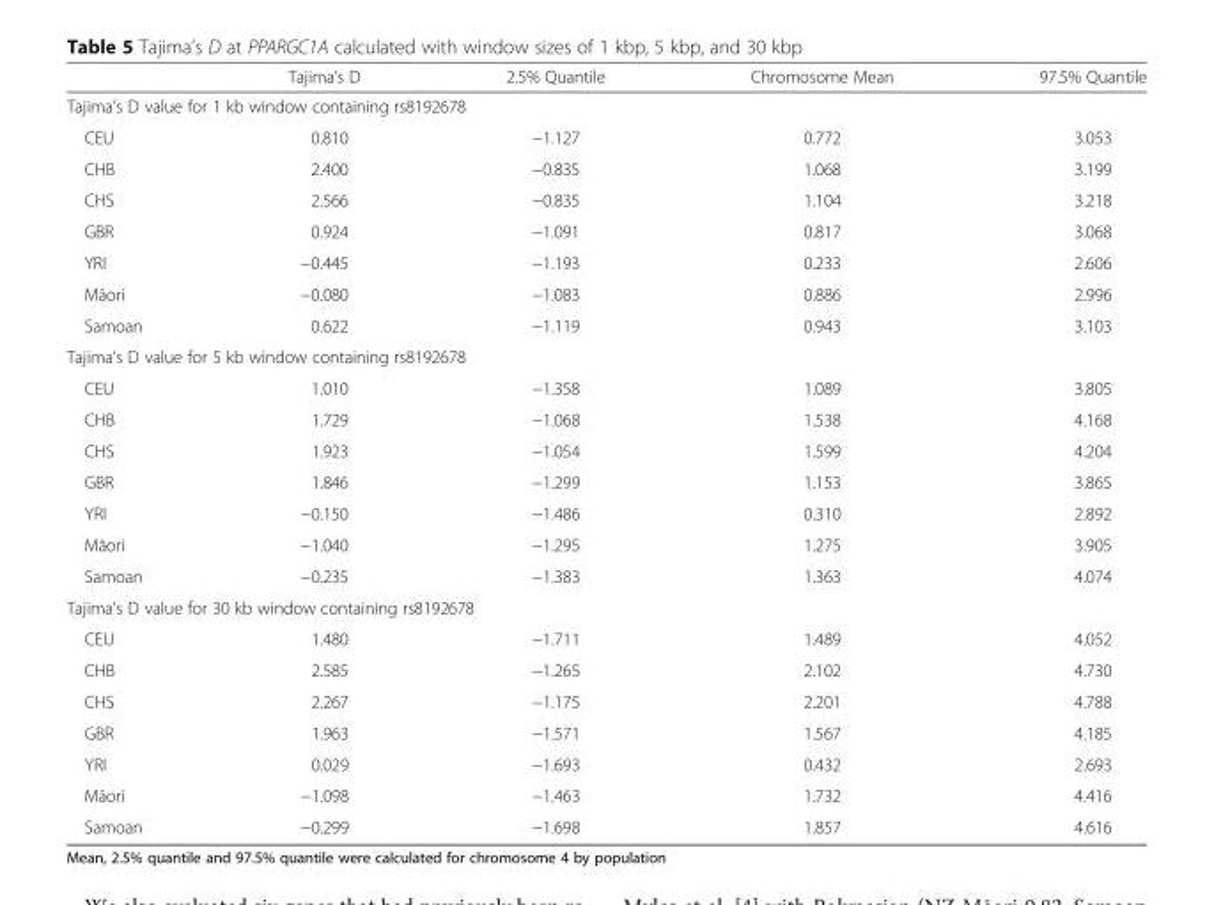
<table><thead><tr><td></td><td>Tajima’s D</td><td>2.5% Quantile</td><td>Chromosome Mean</td><td>97.5% Quantile</td></tr></thead><tbody><tr><td colspan="5">Tajima’s D value for 1 kb window containing rs8192678</td></tr><tr><td>CEU</td><td>0.810</td><td>−1.127</td><td>0.772</td><td>3.053</td></tr><tr><td>CHB</td><td>2.400</td><td>−0.835</td><td>1.068</td><td>3.199</td></tr><tr><td>CHS</td><td>2.566</td><td>−0.835</td><td>1.104</td><td>3.218</td></tr><tr><td>GBR</td><td>0.924</td><td>−1.091</td><td>0.817</td><td>3.068</td></tr><tr><td>YRI</td><td>−0.445</td><td>−1.193</td><td>0.233</td><td>2.606</td></tr><tr><td>Māori</td><td>−0.080</td><td>−1.083</td><td>0.886</td><td>2.996</td></tr><tr><td>Samoan</td><td>0.622</td><td>−1.119</td><td>0.943</td><td>3.103</td></tr><tr><td colspan="5">Tajima’s D value for 5 kb window containing rs8192678</td></tr><tr><td>CEU</td><td>1.010</td><td>−1.358</td><td>1.089</td><td>3.805</td></tr><tr><td>CHB</td><td>1.729</td><td>−1.068</td><td>1.538</td><td>4.168</td></tr><tr><td>CHS</td><td>1.923</td><td>−1.054</td><td>1.599</td><td>4.204</td></tr><tr><td>GBR</td><td>1.846</td><td>−1.299</td><td>1.153</td><td>3.865</td></tr><tr><td>YRI</td><td>−0.150</td><td>−1.486</td><td>0.310</td><td>2.892</td></tr><tr><td>Māori</td><td>−1.040</td><td>−1.295</td><td>1.275</td><td>3.905</td></tr><tr><td>Samoan</td><td>−0.235</td><td>−1.383</td><td>1.363</td><td>4.074</td></tr><tr><td colspan="5">Tajima’s D value for 30 kb window containing rs8192678</td></tr><tr><td>CEU</td><td>1.480</td><td>−1.711</td><td>1.489</td><td>4.052</td></tr><tr><td>CHB</td><td>2.585</td><td>−1.265</td><td>2.102</td><td>4.730</td></tr><tr><td>CHS</td><td>2.267</td><td>−1.175</td><td>2.201</td><td>4.788</td></tr><tr><td>GBR</td><td>1.963</td><td>−1.571</td><td>1.567</td><td>4.185</td></tr><tr><td>YRI</td><td>0.029</td><td>−1.693</td><td>0.432</td><td>2.693</td></tr><tr><td>Māori</td><td>−1.098</td><td>−1.463</td><td>1.732</td><td>4.416</td></tr><tr><td>Samoan</td><td>−0.299</td><td>−1.698</td><td>1.857</td><td>4.616</td></tr></tbody></table>